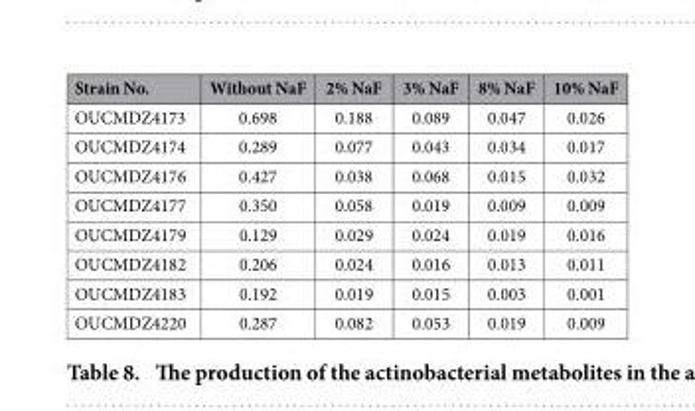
<table><thead><tr><td>Strain No.</td><td>Without NaF</td><td>2% NaF</td><td>3% NaF</td><td>8% NaF</td><td>10% NaF</td></tr></thead><tbody><tr><td>OUCMDZ4173</td><td>0.698</td><td>0.188</td><td>0.089</td><td>0.047</td><td>0.026</td></tr><tr><td>OUCMDZ4174</td><td>0.289</td><td>0.077</td><td>0.043</td><td>0.034</td><td>0.017</td></tr><tr><td>OUCMDZ4176</td><td>0.427</td><td>0.038</td><td>0.068</td><td>0.015</td><td>0.032</td></tr><tr><td>OUCMDZ4177</td><td>0.350</td><td>0.058</td><td>0.019</td><td>0.009</td><td>0.009</td></tr><tr><td>OUCMDZ4179</td><td>0.129</td><td>0.029</td><td>0.024</td><td>0.019</td><td>0.016</td></tr><tr><td>OUCMDZ4182</td><td>0.206</td><td>0.024</td><td>0.016</td><td>0.013</td><td>0.011</td></tr><tr><td>OUCMDZ4183</td><td>0.192</td><td>0.019</td><td>0.015</td><td>0.003</td><td>0.001</td></tr><tr><td>OUCMDZ4220</td><td>0.287</td><td>0.082</td><td>0.053</td><td>0.019</td><td>0.009</td></tr></tbody></table>